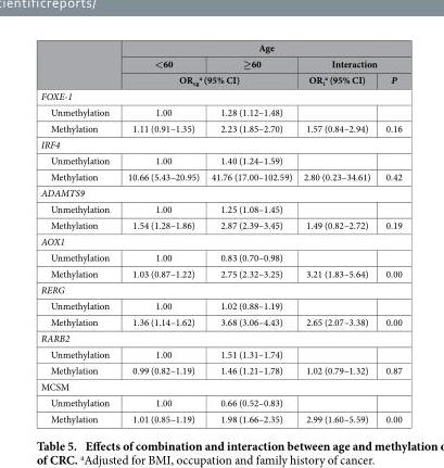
<table><thead><tr><td rowspan="3"></td><td colspan="4">Age</td></tr><tr><td>&lt;60</td><td>≥60</td><td colspan="2">Interaction</td></tr><tr><td colspan="2">OR<sub>eg</sub> <sup>a</sup> (95% CI)</td><td>OR<sub>i</sub> <sup>a</sup> (95% CI)</td><td>P</td></tr></thead><tbody><tr><td colspan="5">FOXE-1</td></tr><tr><td>Unmethylation</td><td>1.00</td><td>1.28 (1.12–1.48)</td><td></td><td></td></tr><tr><td>Methylation</td><td>1.11 (0.91–1.35)</td><td>2.23 (1.85–2.70)</td><td>1.57 (0.84–2.94)</td><td>0.16</td></tr><tr><td colspan="5">IRF4</td></tr><tr><td>Unmethylation</td><td>1.00</td><td>1.40 (1.24–1.59)</td><td></td><td></td></tr><tr><td>Methylation</td><td>10.66 (5.43–20.95)</td><td>41.76 (17.00–102.59)</td><td>2.80 (0.23–34.61)</td><td>0.42</td></tr><tr><td colspan="5">ADAMTS9</td></tr><tr><td>Unmethylation</td><td>1.00</td><td>1.25 (1.08–1.45)</td><td></td><td></td></tr><tr><td>Methylation</td><td>1.54 (1.28–1.86)</td><td>2.87 (2.39–3.45)</td><td>1.49 (0.82–2.72)</td><td>0.19</td></tr><tr><td colspan="5">AOX1</td></tr><tr><td>Unmethylation</td><td>1.00</td><td>0.83 (0.70–0.98)</td><td></td><td></td></tr><tr><td>Methylation</td><td>1.03 (0.87–1.22)</td><td>2.75 (2.32–3.25)</td><td>3.21 (1.83–5.64)</td><td>0.00</td></tr><tr><td colspan="5">RERG</td></tr><tr><td>Unmethylation</td><td>1.00</td><td>1.02 (0.88–1.19)</td><td></td><td></td></tr><tr><td>Methylation</td><td>1.36 (1.14–1.62)</td><td>3.68 (3.06–4.43)</td><td>2.65 (2.07–3.38)</td><td>0.00</td></tr><tr><td colspan="5">RARB2</td></tr><tr><td>Unmethylation</td><td>1.00</td><td>1.51 (1.31–1.74)</td><td></td><td></td></tr><tr><td>Methylation</td><td>0.99 (0.82–1.19)</td><td>1.46 (1.21–1.78)</td><td>1.02 (0.79–1.32)</td><td>0.87</td></tr><tr><td colspan="5">MCSM</td></tr><tr><td>Unmethylation</td><td>1.00</td><td>0.66 (0.52–0.83)</td><td></td><td></td></tr><tr><td>Methylation</td><td>1.01 (0.85–1.19)</td><td>1.98 (1.66–2.35)</td><td>2.99 (1.60–5.59)</td><td>0.00</td></tr></tbody></table>